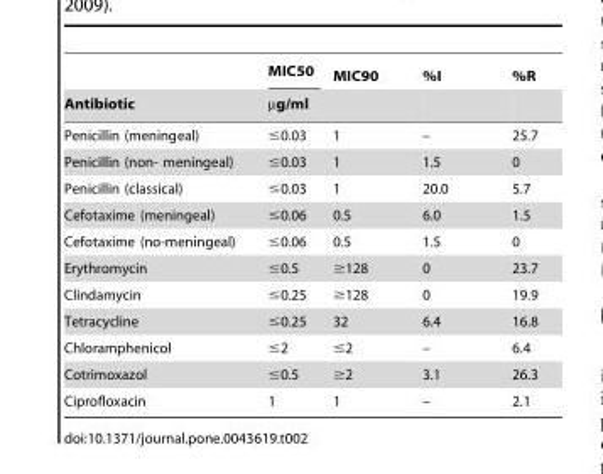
<table><thead><tr><td rowspan="2">Antibiotic</td><td>MIC50</td><td>MIC90</td><td rowspan="2">%I</td><td rowspan="2">%R</td></tr><tr><td colspan="2">µg/ml</td></tr></thead><tbody><tr><td>Penicillin (meningeal)</td><td>≤0.03</td><td>1</td><td>–</td><td>25.7</td></tr><tr><td>Penicillin (non- meningeal)</td><td>≤0.03</td><td>1</td><td>1.5</td><td>0</td></tr><tr><td>Penicillin (classical)</td><td>≤0.03</td><td>1</td><td>20.0</td><td>5.7</td></tr><tr><td>Cefotaxime (meningeal)</td><td>≤0.06</td><td>0.5</td><td>6.0</td><td>1.5</td></tr><tr><td>Cefotaxime (no-meningeal)</td><td>≤0.06</td><td>0.5</td><td>1.5</td><td>0</td></tr><tr><td>Erythromycin</td><td>≤0.5</td><td>≥128</td><td>0</td><td>23.7</td></tr><tr><td>Clindamycin</td><td>≤0.25</td><td>≥128</td><td>0</td><td>19.9</td></tr><tr><td>Tetracycline</td><td>≤0.25</td><td>32</td><td>6.4</td><td>16.8</td></tr><tr><td>Chloramphenicol</td><td>≤2</td><td>≤2</td><td>–</td><td>6.4</td></tr><tr><td>Cotrimoxazol</td><td>≤0.5</td><td>≥2</td><td>3.1</td><td>26.3</td></tr><tr><td>Ciprofloxacin</td><td>1</td><td>1</td><td>–</td><td>2.1</td></tr></tbody></table>